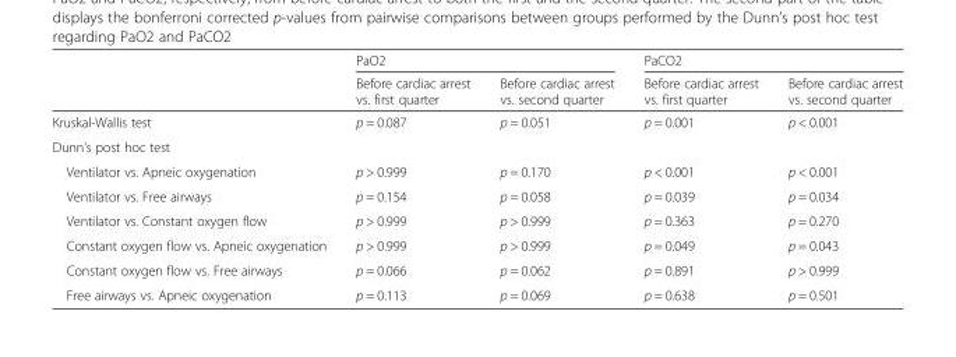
<table><thead><tr><td rowspan="2"></td><td colspan="2">PaO2</td><td colspan="2">PaCO2</td></tr><tr><td>Before cardiac arrest vs. first quarter</td><td>Before cardiac arrest vs. second quarter</td><td>Before cardiac arrest vs. first quarter</td><td>Before cardiac arrest vs. second quarter</td></tr></thead><tbody><tr><td>Kruskal-Wallis test</td><td>p = 0.087</td><td>p = 0.051</td><td>p = 0.001</td><td>p &lt; 0.001</td></tr><tr><td colspan="5">Dunn’s post hoc test</td></tr><tr><td>Ventilator vs. Apneic oxygenation</td><td>p &gt; 0.999</td><td>p = 0.170</td><td>p &lt; 0.001</td><td>p &lt; 0.001</td></tr><tr><td>Ventilator vs. Free airways</td><td>p = 0.154</td><td>p = 0.058</td><td>p = 0.039</td><td>p = 0.034</td></tr><tr><td>Ventilator vs. Constant oxygen flow</td><td>p &gt; 0.999</td><td>p &gt; 0.999</td><td>p = 0.363</td><td>p = 0.270</td></tr><tr><td>Constant oxygen flow vs. Apneic oxygenation</td><td>p &gt; 0.999</td><td>p &gt; 0.999</td><td>p = 0.049</td><td>p = 0.043</td></tr><tr><td>Constant oxygen flow vs. Free airways</td><td>p = 0.066</td><td>p = 0.062</td><td>p = 0.891</td><td>p &gt; 0.999</td></tr><tr><td>Free airways vs. Apneic oxygenation</td><td>p = 0.113</td><td>p = 0.069</td><td>p = 0.638</td><td>p = 0.501</td></tr></tbody></table>